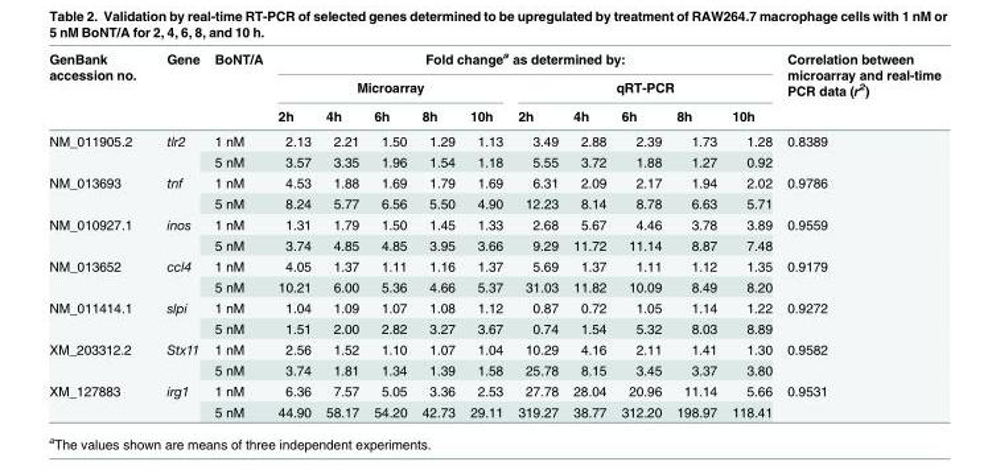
<table><thead><tr><td rowspan="3">GenBank accession no.</td><td rowspan="3">Gene</td><td rowspan="3">BoNT/A</td><td colspan="10">Fold change<sup>a</sup> as determined by:</td><td rowspan="3">Correlation between microarray and real-time PCR data (r<sup>2</sup>)</td></tr><tr><td colspan="5">Microarray</td><td colspan="5">qRT-PCR</td></tr><tr><td>2h</td><td>4h</td><td>6h</td><td>8h</td><td>10h</td><td>2h</td><td>4h</td><td>6h</td><td>8h</td><td>10h</td></tr></thead><tbody><tr><td rowspan="2">NM_011905.2</td><td rowspan="2">tlr2</td><td>1 nM</td><td>2.13</td><td>2.21</td><td>1.50</td><td>1.29</td><td>1.13</td><td>3.49</td><td>2.88</td><td>2.39</td><td>1.73</td><td>1.28</td><td rowspan="2">0.8389</td></tr><tr><td>5 nM</td><td>3.57</td><td>3.35</td><td>1.96</td><td>1.54</td><td>1.18</td><td>5.55</td><td>3.72</td><td>1.88</td><td>1.27</td><td>0.92</td></tr><tr><td rowspan="2">NM_013693</td><td rowspan="2">tnf</td><td>1 nM</td><td>4.53</td><td>1.88</td><td>1.69</td><td>1.79</td><td>1.69</td><td>6.31</td><td>2.09</td><td>2.17</td><td>1.94</td><td>2.02</td><td rowspan="2">0.9786</td></tr><tr><td>5 nM</td><td>8.24</td><td>5.77</td><td>6.56</td><td>5.50</td><td>4.90</td><td>12.23</td><td>8.14</td><td>8.78</td><td>6.63</td><td>5.71</td></tr><tr><td rowspan="2">NM_010927.1</td><td rowspan="2">inos</td><td>1 nM</td><td>1.31</td><td>1.79</td><td>1.50</td><td>1.45</td><td>1.33</td><td>2.68</td><td>5.67</td><td>4.46</td><td>3.78</td><td>3.89</td><td rowspan="2">0.9559</td></tr><tr><td>5 nM</td><td>3.74</td><td>4.85</td><td>4.85</td><td>3.95</td><td>3.66</td><td>9.29</td><td>11.72</td><td>11.14</td><td>8.87</td><td>7.48</td></tr><tr><td rowspan="2">NM_013652</td><td rowspan="2">ccl4</td><td>1 nM</td><td>4.05</td><td>1.37</td><td>1.11</td><td>1.16</td><td>1.37</td><td>5.69</td><td>1.37</td><td>1.11</td><td>1.12</td><td>1.35</td><td rowspan="2">0.9179</td></tr><tr><td>5 nM</td><td>10.21</td><td>6.00</td><td>5.36</td><td>4.66</td><td>5.37</td><td>31.03</td><td>11.82</td><td>10.09</td><td>8.49</td><td>8.20</td></tr><tr><td rowspan="2">NM_011414.1</td><td rowspan="2">slpi</td><td>1 nM</td><td>1.04</td><td>1.09</td><td>1.07</td><td>1.08</td><td>1.12</td><td>0.87</td><td>0.72</td><td>1.05</td><td>1.14</td><td>1.22</td><td rowspan="2">0.9272</td></tr><tr><td>5 nM</td><td>1.51</td><td>2.00</td><td>2.82</td><td>3.27</td><td>3.67</td><td>0.74</td><td>1.54</td><td>5.32</td><td>8.03</td><td>8.89</td></tr><tr><td rowspan="2">XM_203312.2</td><td rowspan="2">Stx11</td><td>1 nM</td><td>2.56</td><td>1.52</td><td>1.10</td><td>1.07</td><td>1.04</td><td>10.29</td><td>4.16</td><td>2.11</td><td>1.41</td><td>1.30</td><td rowspan="2">0.9582</td></tr><tr><td>5 nM</td><td>3.74</td><td>1.81</td><td>1.34</td><td>1.39</td><td>1.58</td><td>25.78</td><td>8.15</td><td>3.45</td><td>3.37</td><td>3.80</td></tr><tr><td rowspan="2">XM_127883</td><td rowspan="2">irg1</td><td>1 nM</td><td>6.36</td><td>7.57</td><td>5.05</td><td>3.36</td><td>2.53</td><td>27.78</td><td>28.04</td><td>20.96</td><td>11.14</td><td>5.66</td><td rowspan="2">0.9531</td></tr><tr><td>5 nM</td><td>44.90</td><td>58.17</td><td>54.20</td><td>42.73</td><td>29.11</td><td>319.27</td><td>38.77</td><td>312.20</td><td>198.97</td><td>118.41</td></tr></tbody></table>